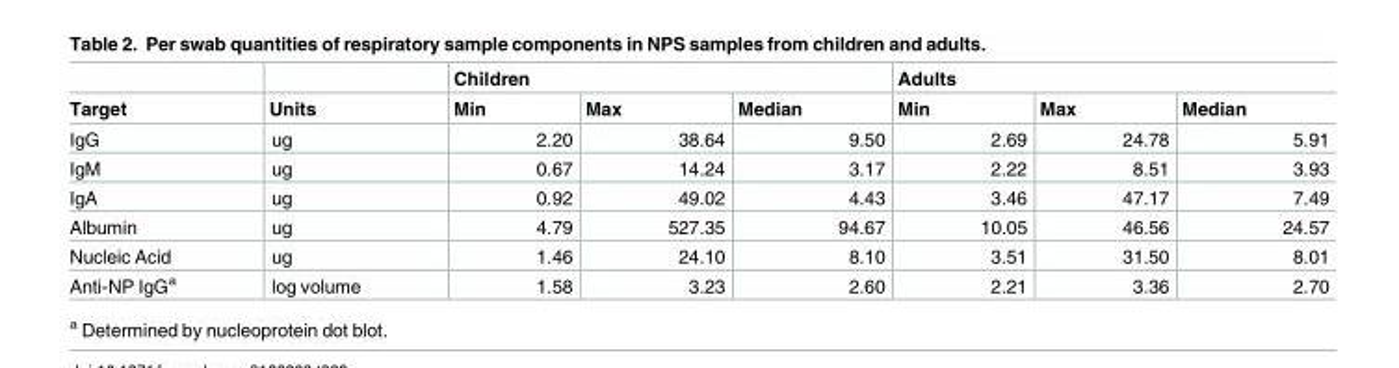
<table><thead><tr><td rowspan="2">Target</td><td rowspan="2">Units</td><td colspan="3">Children</td><td colspan="3">Adults</td></tr><tr><td>Min</td><td>Max</td><td>Median</td><td>Min</td><td>Max</td><td>Median</td></tr></thead><tbody><tr><td>IgG</td><td>ug</td><td>2.20</td><td>38.64</td><td>9.50</td><td>2.69</td><td>24.78</td><td>5.91</td></tr><tr><td>IgM</td><td>ug</td><td>0.67</td><td>14.24</td><td>3.17</td><td>2.22</td><td>8.51</td><td>3.93</td></tr><tr><td>IgA</td><td>ug</td><td>0.92</td><td>49.02</td><td>4.43</td><td>3.46</td><td>47.17</td><td>7.49</td></tr><tr><td>Albumin</td><td>ug</td><td>4.79</td><td>527.35</td><td>94.67</td><td>10.05</td><td>46.56</td><td>24.57</td></tr><tr><td>Nucleic Acid</td><td>ug</td><td>1.46</td><td>24.10</td><td>8.10</td><td>3.51</td><td>31.50</td><td>8.01</td></tr><tr><td>Anti-NP IgG<sup>a</sup></td><td>log volume</td><td>1.58</td><td>3.23</td><td>2.60</td><td>2.21</td><td>3.36</td><td>2.70</td></tr></tbody></table>